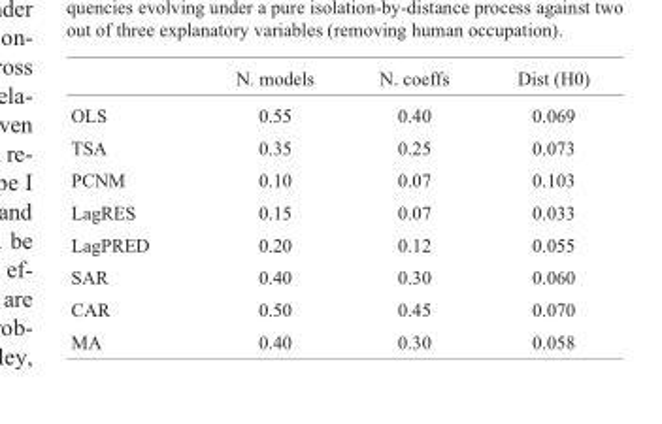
<table><thead><tr><td></td><td>N. models</td><td>N. coeffs</td><td>Dist (H0)</td></tr></thead><tbody><tr><td>OLS</td><td>0.55</td><td>0.40</td><td>0.069</td></tr><tr><td>TSA</td><td>0.35</td><td>0.25</td><td>0.073</td></tr><tr><td>PCNM</td><td>0.10</td><td>0.07</td><td>0.103</td></tr><tr><td>LagRES</td><td>0.15</td><td>0.07</td><td>0.033</td></tr><tr><td>LagPRED</td><td>0.20</td><td>0.12</td><td>0.055</td></tr><tr><td>SAR</td><td>0.40</td><td>0.30</td><td>0.060</td></tr><tr><td>CAR</td><td>0.50</td><td>0.45</td><td>0.070</td></tr><tr><td>MA</td><td>0.40</td><td>0.30</td><td>0.058</td></tr></tbody></table>